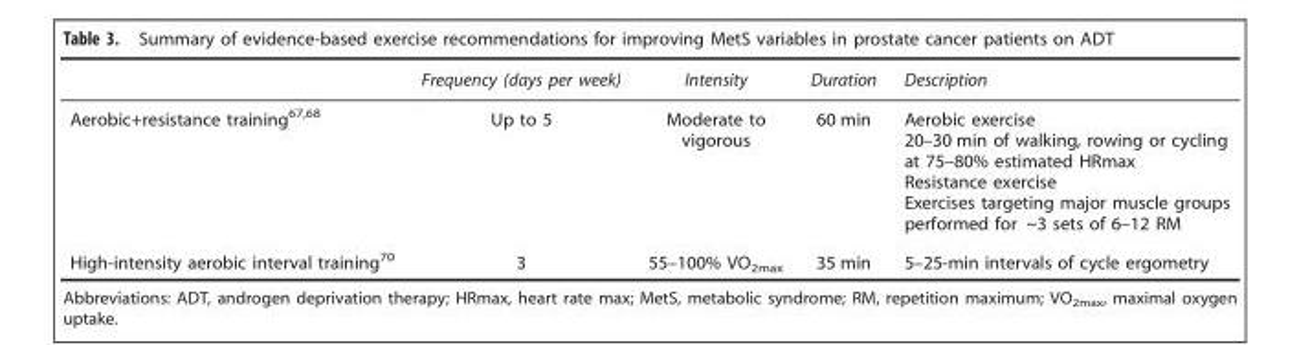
<table><thead><tr><td></td><td>Frequency (days per week)</td><td>Intensity</td><td>Duration</td><td>Description</td></tr></thead><tbody><tr><td>Aerobic+resistance training<sup>67,68</sup></td><td>Up to 5</td><td>Moderate to vigorous</td><td>60 min</td><td>Aerobic exercise 20–30 min of walking, rowing or cycling at 75–80% estimated HRmax Resistance exercise Exercises targeting major muscle groups performed for ~3 sets of 6–12 RM</td></tr><tr><td>High-intensity aerobic interval training<sup>70</sup></td><td>3</td><td>55–100% VO<sub>2max</sub></td><td>35 min</td><td>5–25-min intervals of cycle ergometry</td></tr></tbody></table>